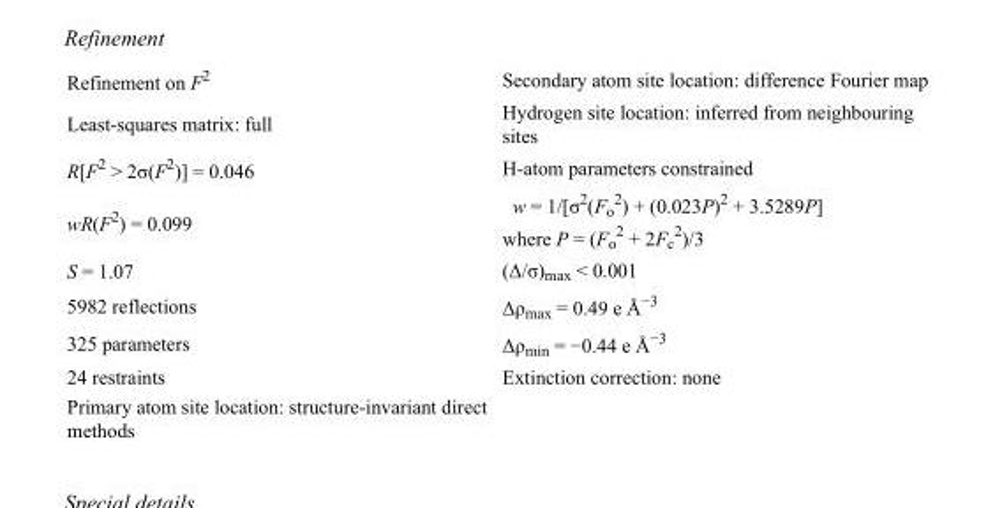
<table><tbody><tr><td>Refinement on F<sup>2</sup></td><td>Secondary atom site location: difference Fourier map</td></tr><tr><td>Least-squares matrix: full</td><td>Hydrogen site location: inferred from neighbouring sites</td></tr><tr><td>R[F<sup>2</sup> &gt; 2σ(F<sup>2</sup>)] = 0.046</td><td>H-atom parameters constrained</td></tr><tr><td>wR(F<sup>2</sup>) = 0.099</td><td>w = 1/[σ<sup>2</sup>(F<sub>o</sub> <sup>2</sup>) + (0.023P)<sup>2</sup> + 3.5289P] where P = (F<sub>o</sub> <sup>2</sup> + 2F<sub>c</sub> <sup>2</sup>)/3</td></tr><tr><td>S = 1.07</td><td>(Δ/σ)<sub>max</sub> &lt; 0.001</td></tr><tr><td>5982 reflections</td><td>Δρ<sub>max</sub> = 0.49 e Å<sup>−3</sup></td></tr><tr><td>325 parameters</td><td>Δρ<sub>min</sub> = −0.44 e Å<sup>−3</sup></td></tr><tr><td>24 restraints</td><td>Extinction correction: none</td></tr><tr><td>Primary atom site location: structure-invariant direct methods</td><td></td></tr></tbody></table>